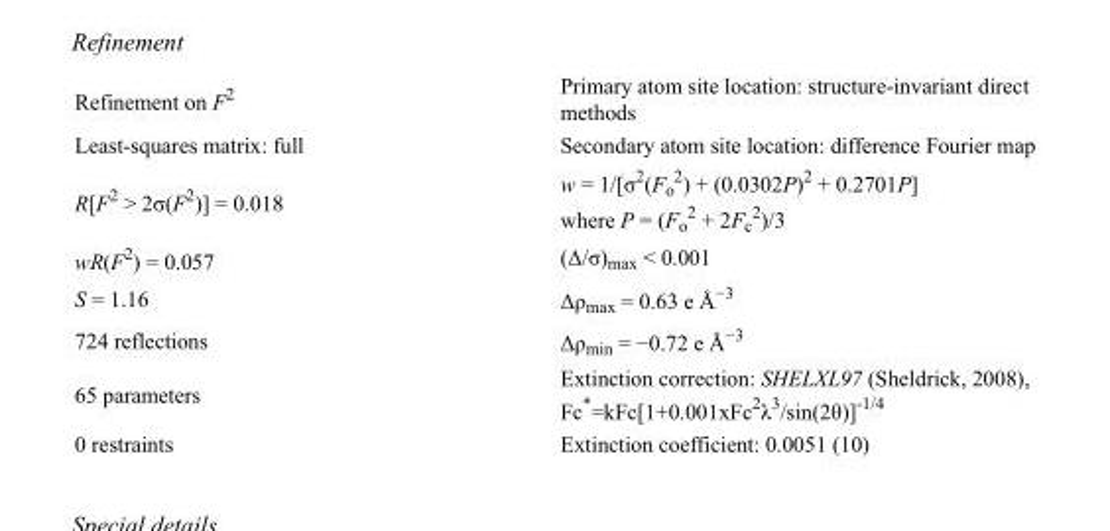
<table><tbody><tr><td>Refinement on F<sup>2</sup></td><td>Primary atom site location: structure-invariant direct methods</td></tr><tr><td>Least-squares matrix: full</td><td>Secondary atom site location: difference Fourier map</td></tr><tr><td>R[F<sup>2</sup> &gt; 2σ(F<sup>2</sup>)] = 0.018</td><td>w = 1/[σ<sup>2</sup>(F<sub>o</sub> <sup>2</sup>) + (0.0302P)<sup>2</sup> + 0.2701P] where P = (F<sub>o</sub> <sup>2</sup> + 2F<sub>c</sub> <sup>2</sup>)/3</td></tr><tr><td>wR(F<sup>2</sup>) = 0.057</td><td>(Δ/σ)<sub>max</sub> &lt; 0.001</td></tr><tr><td>S = 1.16</td><td>Δρ<sub>max</sub> = 0.63 e Å<sup>−3</sup></td></tr><tr><td>724 reflections</td><td>Δρ<sub>min</sub> = −0.72 e Å<sup>−3</sup></td></tr><tr><td>65 parameters</td><td>Extinction correction: SHELXL97 (Sheldrick, 2008), Fc*=kFc[1+0.001xFc<sup>2</sup>λ<sup>3</sup>/sin(2θ)]<sup>-1/4</sup></td></tr><tr><td>0 restraints</td><td>Extinction coefficient: 0.0051 (10)</td></tr></tbody></table>